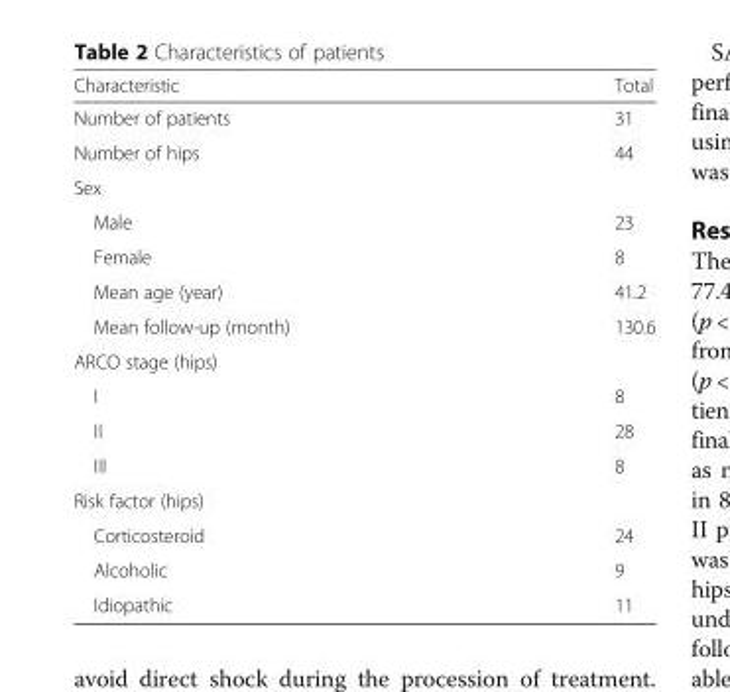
<table><thead><tr><td>Characteristic</td><td>Total</td></tr></thead><tbody><tr><td>Number of patients</td><td>31</td></tr><tr><td>Number of hips</td><td>44</td></tr><tr><td colspan="2">Sex</td></tr><tr><td>Male</td><td>23</td></tr><tr><td>Female</td><td>8</td></tr><tr><td>Mean age (year)</td><td>41.2</td></tr><tr><td>Mean follow-up (month)</td><td>130.6</td></tr><tr><td colspan="2">ARCO stage (hips)</td></tr><tr><td>I</td><td>8</td></tr><tr><td>II</td><td>28</td></tr><tr><td>III</td><td>8</td></tr><tr><td colspan="2">Risk factor (hips)</td></tr><tr><td>Corticosteroid</td><td>24</td></tr><tr><td>Alcoholic</td><td>9</td></tr><tr><td>Idiopathic</td><td>11</td></tr></tbody></table>